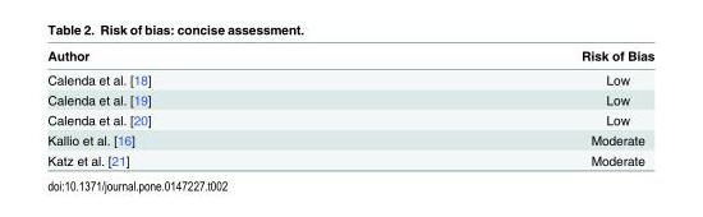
<table><thead><tr><td>Author</td><td>Risk of Bias</td></tr></thead><tbody><tr><td>Calenda et al. [18]</td><td>Low</td></tr><tr><td>Calenda et al. [19]</td><td>Low</td></tr><tr><td>Calenda et al. [20]</td><td>Low</td></tr><tr><td>Kallio et al. [16]</td><td>Moderate</td></tr><tr><td>Katz et al. [21]</td><td>Moderate</td></tr></tbody></table>